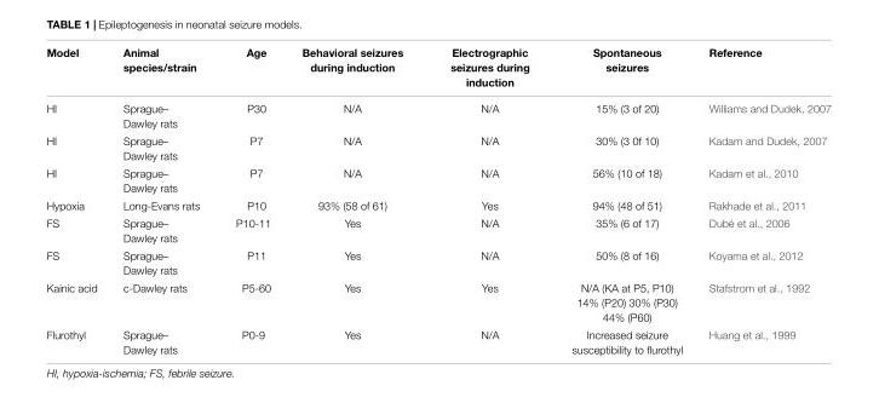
<table><thead><tr><td>Model</td><td>Animal species/strain</td><td>Age</td><td>Behavioral seizures during induction</td><td>Electrographic seizures during induction</td><td>Spontaneous seizures</td><td>Reference</td></tr></thead><tbody><tr><td>HI</td><td>Sprague– Dawley rats</td><td>P30</td><td>N/A</td><td>N/A</td><td>15% (3 of 20)</td><td>Williams and Dudek, 2007</td></tr><tr><td>HI</td><td>Sprague– Dawley rats</td><td>P7</td><td>N/A</td><td>N/A</td><td>30% (3 0f 10)</td><td>Kadam and Dudek, 2007</td></tr><tr><td>HI</td><td>Sprague– Dawley rats</td><td>P7</td><td>N/A</td><td>N/A</td><td>56% (10 of 18)</td><td>Kadam et al., 2010</td></tr><tr><td>Hypoxia</td><td>Long-Evans rats</td><td>P10</td><td>93% (58 of 61)</td><td>Yes</td><td>94% (48 of 51)</td><td>Rakhade et al., 2011</td></tr><tr><td>FS</td><td>Sprague– Dawley rats</td><td>P10-11</td><td>Yes</td><td>N/A</td><td>35% (6 of 17)</td><td>Dubé et al., 2006</td></tr><tr><td>FS</td><td>Sprague– Dawley rats</td><td>P11</td><td>Yes</td><td>N/A</td><td>50% (8 of 16)</td><td>Koyama et al., 2012</td></tr><tr><td>Kainic acid</td><td>c-Dawley rats</td><td>P5-60</td><td>Yes</td><td>Yes</td><td>N/A (KA at P5, P10) 14% (P20) 30% (P30) 44% (P60)</td><td>Stafstrom et al., 1992</td></tr><tr><td>Flurothyl</td><td>Sprague– Dawley rats</td><td>P0-9</td><td>Yes</td><td>N/A</td><td>Increased seizure susceptibility to flurothyl</td><td>Huang et al., 1999</td></tr></tbody></table>